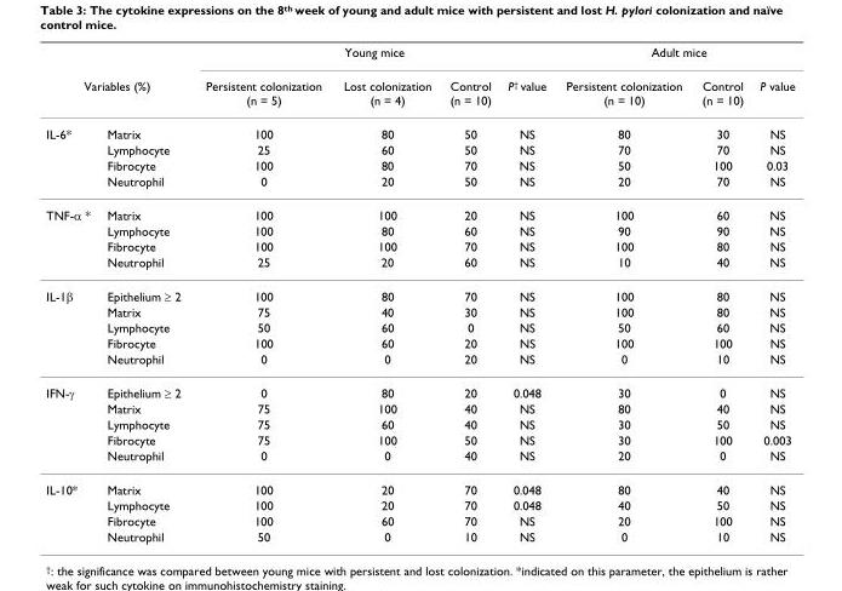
<table><thead><tr><td></td><td></td><td colspan="4">Young mice</td><td colspan="3">Adult mice</td></tr><tr><td colspan="2">Variables (%)</td><td>Persistent colonization (n = 5)</td><td>Lost colonization (n = 4)</td><td>Control (n = 10)</td><td>P<sup>†</sup> value</td><td>Persistent colonization (n = 10)</td><td>Control (n = 10)</td><td>P value</td></tr></thead><tbody><tr><td rowspan="4">IL-6*</td><td>Matrix</td><td>100</td><td>80</td><td>50</td><td>NS</td><td>80</td><td>30</td><td>NS</td></tr><tr><td>Lymphocyte</td><td>25</td><td>60</td><td>50</td><td>NS</td><td>70</td><td>70</td><td>NS</td></tr><tr><td>Fibrocyte</td><td>100</td><td>80</td><td>70</td><td>NS</td><td>50</td><td>100</td><td>0.03</td></tr><tr><td>Neutrophil</td><td>0</td><td>20</td><td>50</td><td>NS</td><td>20</td><td>70</td><td>NS</td></tr><tr><td rowspan="4">TNF-α *</td><td>Matrix</td><td>100</td><td>100</td><td>20</td><td>NS</td><td>100</td><td>60</td><td>NS</td></tr><tr><td>Lymphocyte</td><td>100</td><td>80</td><td>60</td><td>NS</td><td>90</td><td>90</td><td>NS</td></tr><tr><td>Fibrocyte</td><td>100</td><td>100</td><td>70</td><td>NS</td><td>100</td><td>80</td><td>NS</td></tr><tr><td>Neutrophil</td><td>25</td><td>20</td><td>60</td><td>NS</td><td>10</td><td>40</td><td>NS</td></tr><tr><td rowspan="5">IL-1β</td><td>Epithelium ≥ 2</td><td>100</td><td>80</td><td>70</td><td>NS</td><td>100</td><td>80</td><td>NS</td></tr><tr><td>Matrix</td><td>75</td><td>40</td><td>30</td><td>NS</td><td>100</td><td>80</td><td>NS</td></tr><tr><td>Lymphocyte</td><td>50</td><td>60</td><td>0</td><td>NS</td><td>50</td><td>60</td><td>NS</td></tr><tr><td>Fibrocyte</td><td>100</td><td>60</td><td>20</td><td>NS</td><td>100</td><td>100</td><td>NS</td></tr><tr><td>Neutrophil</td><td>0</td><td>0</td><td>20</td><td>NS</td><td>0</td><td>10</td><td>NS</td></tr><tr><td rowspan="5">IFN-γ</td><td>Epithelium ≥ 2</td><td>0</td><td>80</td><td>20</td><td>0.048</td><td>30</td><td>0</td><td>NS</td></tr><tr><td>Matrix</td><td>75</td><td>100</td><td>40</td><td>NS</td><td>80</td><td>40</td><td>NS</td></tr><tr><td>Lymphocyte</td><td>75</td><td>60</td><td>40</td><td>NS</td><td>30</td><td>50</td><td>NS</td></tr><tr><td>Fibrocyte</td><td>75</td><td>100</td><td>50</td><td>NS</td><td>30</td><td>100</td><td>0.003</td></tr><tr><td>Neutrophil</td><td>0</td><td>0</td><td>40</td><td>NS</td><td>20</td><td>0</td><td>NS</td></tr><tr><td rowspan="4">IL-10*</td><td>Matrix</td><td>100</td><td>20</td><td>70</td><td>0.048</td><td>80</td><td>40</td><td>NS</td></tr><tr><td>Lymphocyte</td><td>100</td><td>20</td><td>70</td><td>0.048</td><td>40</td><td>50</td><td>NS</td></tr><tr><td>Fibrocyte</td><td>100</td><td>60</td><td>70</td><td>NS</td><td>20</td><td>100</td><td>NS</td></tr><tr><td>Neutrophil</td><td>50</td><td>0</td><td>10</td><td>NS</td><td>0</td><td>10</td><td>NS</td></tr></tbody></table>